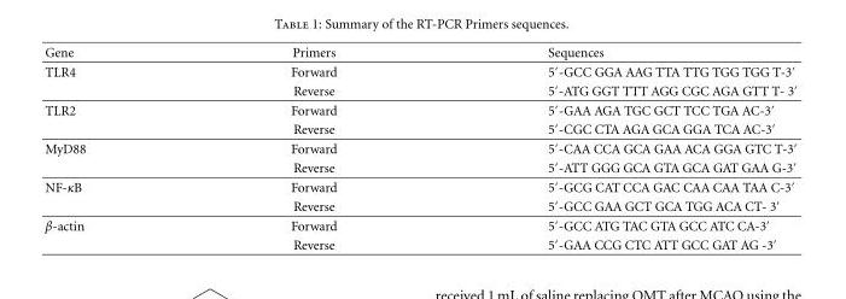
<table><thead><tr><td>Gene</td><td>Primers</td><td>Sequences</td></tr></thead><tbody><tr><td rowspan="2">TLR4</td><td>Forward</td><td>5′-GCC GGA AAG TTA TTG TGG TGG T-3′</td></tr><tr><td>Reverse</td><td>5′-ATG GGT TTT AGG CGC AGA GTT T- 3′</td></tr><tr><td rowspan="2">TLR2</td><td>Forward</td><td>5′-GAA AGA TGC GCT TCC TGA AC-3′</td></tr><tr><td>Reverse</td><td>5′-CGC CTA AGA GCA GGA TCA AC-3′</td></tr><tr><td rowspan="2">MyD88</td><td>Forward</td><td>5′-CAA CCA GCA GAA ACA GGA GTC T-3′</td></tr><tr><td>Reverse</td><td>5′-ATT GGG GCA GTA GCA GAT GAA G-3′</td></tr><tr><td rowspan="2">NF-κB</td><td>Forward</td><td>5′-GCG CAT CCA GAC CAA CAA TAA C-3′</td></tr><tr><td>Reverse</td><td>5′-GCC GAA GCT GCA TGG ACA CT- 3′</td></tr><tr><td rowspan="2">β-actin</td><td>Forward</td><td>5′-GCC ATG TAC GTA GCC ATC CA-3′</td></tr><tr><td>Reverse</td><td>5′-GAA CCG CTC ATT GCC GAT AG -3′</td></tr></tbody></table>